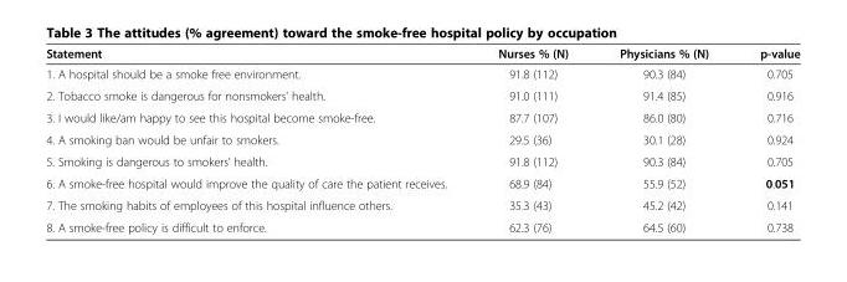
<table><thead><tr><td>Statement</td><td>Nurses % (N)</td><td>Physicians % (N)</td><td>p-value</td></tr></thead><tbody><tr><td>1. A hospital should be a smoke free environment.</td><td>91.8 (112)</td><td>90.3 (84)</td><td>0.705</td></tr><tr><td>2. Tobacco smoke is dangerous for nonsmokers’ health.</td><td>91.0 (111)</td><td>91.4 (85)</td><td>0.916</td></tr><tr><td>3. I would like/am happy to see this hospital become smoke-free.</td><td>87.7 (107)</td><td>86.0 (80)</td><td>0.716</td></tr><tr><td>4. A smoking ban would be unfair to smokers.</td><td>29.5 (36)</td><td>30.1 (28)</td><td>0.924</td></tr><tr><td>5. Smoking is dangerous to smokers’ health.</td><td>91.8 (112)</td><td>90.3 (84)</td><td>0.705</td></tr><tr><td>6. A smoke-free hospital would improve the quality of care the patient receives.</td><td>68.9 (84)</td><td>55.9 (52)</td><td>0.051</td></tr><tr><td>7. The smoking habits of employees of this hospital influence others.</td><td>35.3 (43)</td><td>45.2 (42)</td><td>0.141</td></tr><tr><td>8. A smoke-free policy is difficult to enforce.</td><td>62.3 (76)</td><td>64.5 (60)</td><td>0.738</td></tr></tbody></table>